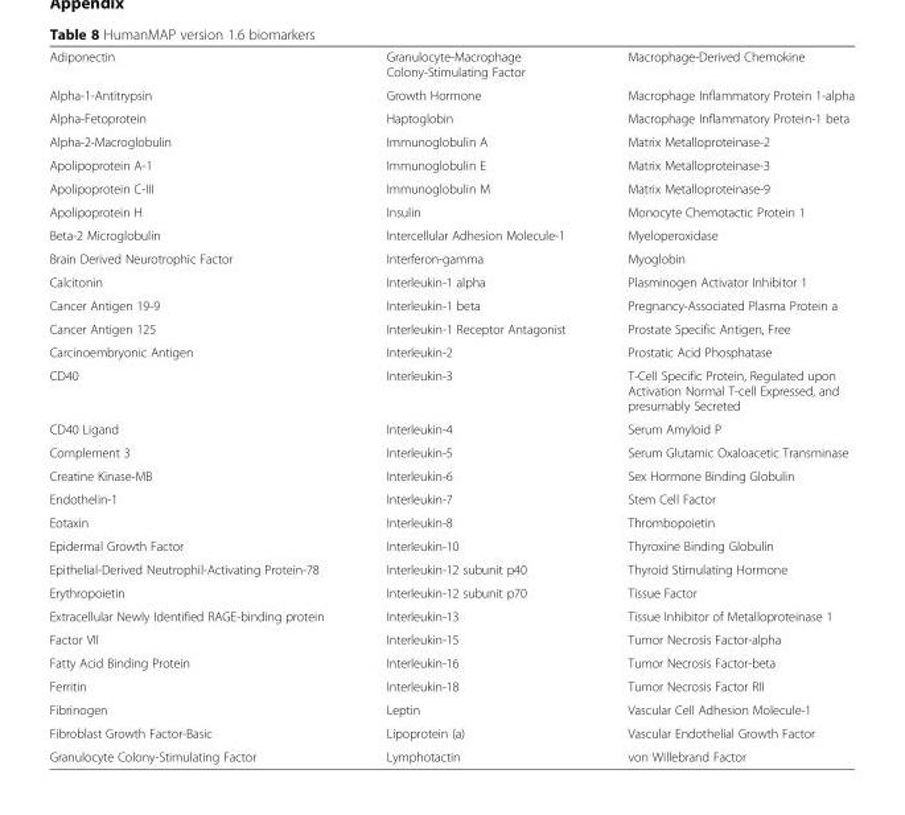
<table><tbody><tr><td>Adiponectin</td><td>Granulocyte-Macrophage Colony-Stimulating Factor</td><td>Macrophage-Derived Chemokine</td></tr><tr><td>Alpha-1-Antitrypsin</td><td>Growth Hormone</td><td>Macrophage Inflammatory Protein 1-alpha</td></tr><tr><td>Alpha-Fetoprotein</td><td>Haptoglobin</td><td>Macrophage Inflammatory Protein-1 beta</td></tr><tr><td>Alpha-2-Macroglobulin</td><td>Immunoglobulin A</td><td>Matrix Metalloproteinase-2</td></tr><tr><td>Apolipoprotein A-1</td><td>Immunoglobulin E</td><td>Matrix Metalloproteinase-3</td></tr><tr><td>Apolipoprotein C-III</td><td>Immunoglobulin M</td><td>Matrix Metalloproteinase-9</td></tr><tr><td>Apolipoprotein H</td><td>Insulin</td><td>Monocyte Chemotactic Protein 1</td></tr><tr><td>Beta-2 Microglobulin</td><td>Intercellular Adhesion Molecule-1</td><td>Myeloperoxidase</td></tr><tr><td>Brain Derived Neurotrophic Factor</td><td>Interferon-gamma</td><td>Myoglobin</td></tr><tr><td>Calcitonin</td><td>Interleukin-1 alpha</td><td>Plasminogen Activator Inhibitor 1</td></tr><tr><td>Cancer Antigen 19-9</td><td>Interleukin-1 beta</td><td>Pregnancy-Associated Plasma Protein a</td></tr><tr><td>Cancer Antigen 125</td><td>Interleukin-1 Receptor Antagonist</td><td>Prostate Specific Antigen, Free</td></tr><tr><td>Carcinoembryonic Antigen</td><td>Interleukin-2</td><td>Prostatic Acid Phosphatase</td></tr><tr><td>CD40</td><td>Interleukin-3</td><td>T-Cell Specific Protein, Regulated upon Activation Normal T-cell Expressed, and presumably Secreted</td></tr><tr><td>CD40 Ligand</td><td>Interleukin-4</td><td>Serum Amyloid P</td></tr><tr><td>Complement 3</td><td>Interleukin-5</td><td>Serum Glutamic Oxaloacetic Transminase</td></tr><tr><td>Creatine Kinase-MB</td><td>Interleukin-6</td><td>Sex Hormone Binding Globulin</td></tr><tr><td>Endothelin-1</td><td>Interleukin-7</td><td>Stem Cell Factor</td></tr><tr><td>Eotaxin</td><td>Interleukin-8</td><td>Thrombopoietin</td></tr><tr><td>Epidermal Growth Factor</td><td>Interleukin-10</td><td>Thyroxine Binding Globulin</td></tr><tr><td>Epithelial-Derived Neutrophil-Activating Protein-78</td><td>Interleukin-12 subunit p40</td><td>Thyroid Stimulating Hormone</td></tr><tr><td>Erythropoietin</td><td>Interleukin-12 subunit p70</td><td>Tissue Factor</td></tr><tr><td>Extracellular Newly Identified RAGE-binding protein</td><td>Interleukin-13</td><td>Tissue Inhibitor of Metalloproteinase 1</td></tr><tr><td>Factor VII</td><td>Interleukin-15</td><td>Tumor Necrosis Factor-alpha</td></tr><tr><td>Fatty Acid Binding Protein</td><td>Interleukin-16</td><td>Tumor Necrosis Factor-beta</td></tr><tr><td>Ferritin</td><td>Interleukin-18</td><td>Tumor Necrosis Factor RII</td></tr><tr><td>Fibrinogen</td><td>Leptin</td><td>Vascular Cell Adhesion Molecule-1</td></tr><tr><td>Fibroblast Growth Factor-Basic</td><td>Lipoprotein (a)</td><td>Vascular Endothelial Growth Factor</td></tr><tr><td>Granulocyte Colony-Stimulating Factor</td><td>Lymphotactin</td><td>von Willebrand Factor</td></tr></tbody></table>